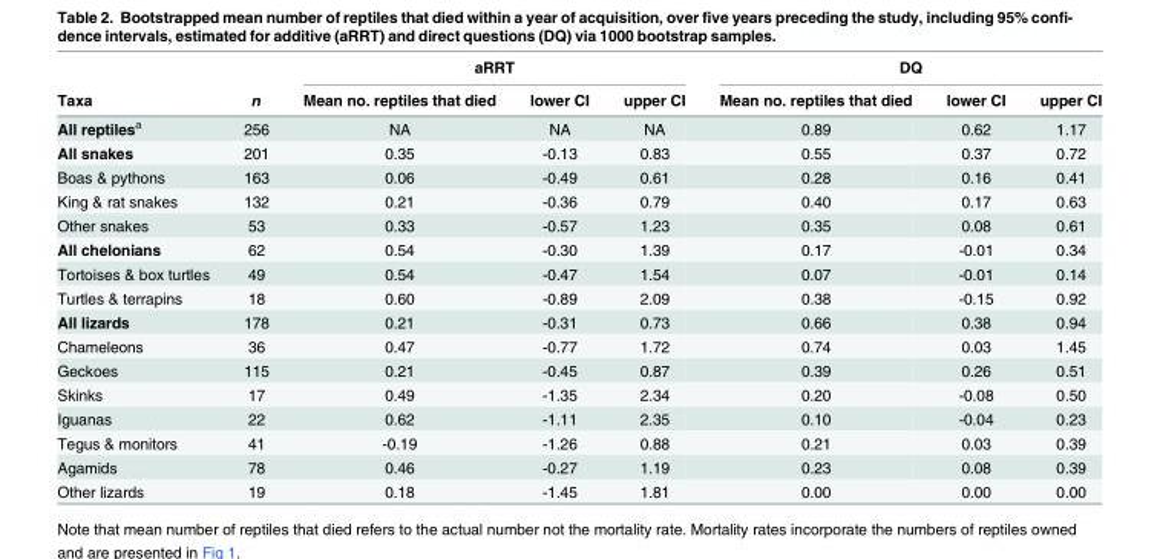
<table><thead><tr><td rowspan="2">Taxa</td><td rowspan="2">n</td><td colspan="3">aRRT</td><td colspan="3">DQ</td></tr><tr><td>Mean no. reptiles that died</td><td>lower CI</td><td>upper CI</td><td>Mean no. reptiles that died</td><td>lower CI</td><td>upper CI</td></tr></thead><tbody><tr><td>All reptiles<sup>a</sup></td><td>256</td><td>NA</td><td>NA</td><td>NA</td><td>0.89</td><td>0.62</td><td>1.17</td></tr><tr><td>All snakes</td><td>201</td><td>0.35</td><td>-0.13</td><td>0.83</td><td>0.55</td><td>0.37</td><td>0.72</td></tr><tr><td>Boas &amp; pythons</td><td>163</td><td>0.06</td><td>-0.49</td><td>0.61</td><td>0.28</td><td>0.16</td><td>0.41</td></tr><tr><td>King &amp; rat snakes</td><td>132</td><td>0.21</td><td>-0.36</td><td>0.79</td><td>0.40</td><td>0.17</td><td>0.63</td></tr><tr><td>Other snakes</td><td>53</td><td>0.33</td><td>-0.57</td><td>1.23</td><td>0.35</td><td>0.08</td><td>0.61</td></tr><tr><td>All chelonians</td><td>62</td><td>0.54</td><td>-0.30</td><td>1.39</td><td>0.17</td><td>-0.01</td><td>0.34</td></tr><tr><td>Tortoises &amp; box turtles</td><td>49</td><td>0.54</td><td>-0.47</td><td>1.54</td><td>0.07</td><td>-0.01</td><td>0.14</td></tr><tr><td>Turtles &amp; terrapins</td><td>18</td><td>0.60</td><td>-0.89</td><td>2.09</td><td>0.38</td><td>-0.15</td><td>0.92</td></tr><tr><td>All lizards</td><td>178</td><td>0.21</td><td>-0.31</td><td>0.73</td><td>0.66</td><td>0.38</td><td>0.94</td></tr><tr><td>Chameleons</td><td>36</td><td>0.47</td><td>-0.77</td><td>1.72</td><td>0.74</td><td>0.03</td><td>1.45</td></tr><tr><td>Geckoes</td><td>115</td><td>0.21</td><td>-0.45</td><td>0.87</td><td>0.39</td><td>0.26</td><td>0.51</td></tr><tr><td>Skinks</td><td>17</td><td>0.49</td><td>-1.35</td><td>2.34</td><td>0.20</td><td>-0.08</td><td>0.50</td></tr><tr><td>Iguanas</td><td>22</td><td>0.62</td><td>-1.11</td><td>2.35</td><td>0.10</td><td>-0.04</td><td>0.23</td></tr><tr><td>Tegus &amp; monitors</td><td>41</td><td>-0.19</td><td>-1.26</td><td>0.88</td><td>0.21</td><td>0.03</td><td>0.39</td></tr><tr><td>Agamids</td><td>78</td><td>0.46</td><td>-0.27</td><td>1.19</td><td>0.23</td><td>0.08</td><td>0.39</td></tr><tr><td>Other lizards</td><td>19</td><td>0.18</td><td>-1.45</td><td>1.81</td><td>0.00</td><td>0.00</td><td>0.00</td></tr></tbody></table>